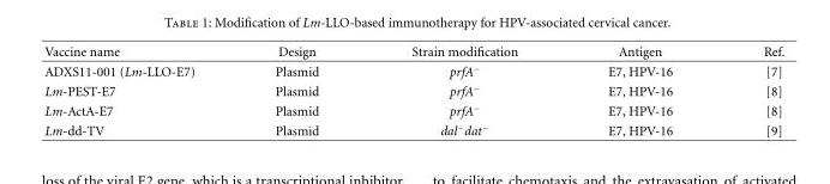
<table><thead><tr><td>Vaccine name</td><td>Design</td><td>Strain modification</td><td>Antigen</td><td>Ref.</td></tr></thead><tbody><tr><td>ADXS11-001 (Lm-LLO-E7)</td><td>Plasmid</td><td>prfA<sup>−</sup></td><td>E7, HPV-16</td><td>[7]</td></tr><tr><td>Lm-PEST-E7</td><td>Plasmid</td><td>prfA<sup>−</sup></td><td>E7, HPV-16</td><td>[8]</td></tr><tr><td>Lm-ActA-E7</td><td>Plasmid</td><td>prfA<sup>−</sup></td><td>E7, HPV-16</td><td>[8]</td></tr><tr><td>Lm-dd-TV</td><td>Plasmid</td><td>dal<sup>−</sup>dat<sup>−</sup></td><td>E7, HPV-16</td><td>[9]</td></tr></tbody></table>